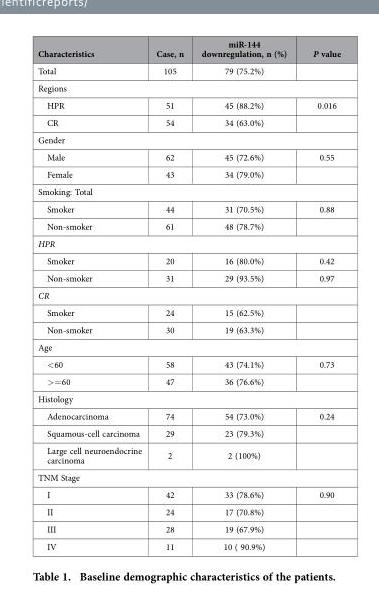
<table><thead><tr><td>Characteristics</td><td>Case, n</td><td>miR-144 downregulation, n (%)</td><td>P value</td></tr></thead><tbody><tr><td>Total</td><td>105</td><td>79 (75.2%)</td><td></td></tr><tr><td colspan="4">Regions</td></tr><tr><td>HPR</td><td>51</td><td>45 (88.2%)</td><td>0.016</td></tr><tr><td>CR</td><td>54</td><td>34 (63.0%)</td><td></td></tr><tr><td colspan="4">Gender</td></tr><tr><td>Male</td><td>62</td><td>45 (72.6%)</td><td>0.55</td></tr><tr><td>Female</td><td>43</td><td>34 (79.0%)</td><td></td></tr><tr><td colspan="4">Smoking: Total</td></tr><tr><td>Smoker</td><td>44</td><td>31 (70.5%)</td><td>0.88</td></tr><tr><td>Non-smoker</td><td>61</td><td>48 (78.7%)</td><td></td></tr><tr><td colspan="4">HPR</td></tr><tr><td>Smoker</td><td>20</td><td>16 (80.0%)</td><td>0.42</td></tr><tr><td>Non-smoker</td><td>31</td><td>29 (93.5%)</td><td>0.97</td></tr><tr><td colspan="4">CR</td></tr><tr><td>Smoker</td><td>24</td><td>15 (62.5%)</td><td></td></tr><tr><td>Non-smoker</td><td>30</td><td>19 (63.3%)</td><td></td></tr><tr><td colspan="4">Age</td></tr><tr><td>&lt; 60</td><td>58</td><td>43 (74.1%)</td><td>0.73</td></tr><tr><td>&gt; = 60</td><td>47</td><td>36 (76.6%)</td><td></td></tr><tr><td colspan="4">Histology</td></tr><tr><td>Adenocarcinoma</td><td>74</td><td>54 (73.0%)</td><td>0.24</td></tr><tr><td>Squamous-cell carcinoma</td><td>29</td><td>23 (79.3%)</td><td></td></tr><tr><td>Large cell neuroendocrine carcinoma</td><td>2</td><td>2 (100%)</td><td></td></tr><tr><td colspan="4">TNM Stage</td></tr><tr><td>I</td><td>42</td><td>33 (78.6%)</td><td>0.90</td></tr><tr><td>II</td><td>24</td><td>17 (70.8%)</td><td></td></tr><tr><td>III</td><td>28</td><td>19 (67.9%)</td><td></td></tr><tr><td>IV</td><td>11</td><td>10 ( 90.9%)</td><td></td></tr></tbody></table>